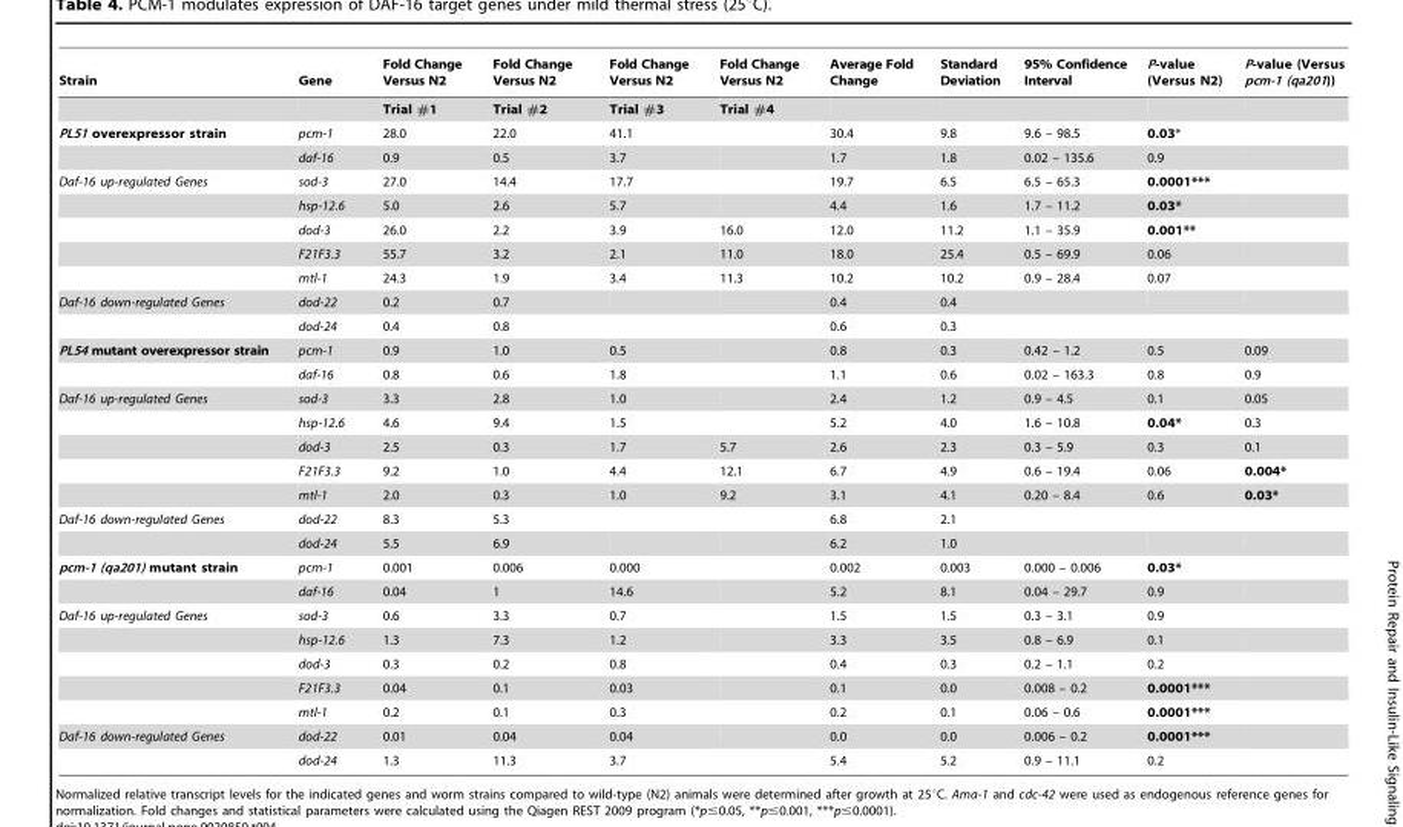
<table><thead><tr><td>Strain</td><td>Gene</td><td>Fold Change Versus N2</td><td>Fold Change Versus N2</td><td>Fold Change Versus N2</td><td>Fold Change Versus N2</td><td>Average Fold Change</td><td>Standard Deviation</td><td>95% Confidence Interval</td><td>P-value (Versus N2)</td><td>P-value (Versus pcm-1 (qa201))</td></tr></thead><tbody><tr><td></td><td></td><td>Trial #1</td><td>Trial #2</td><td>Trial #3</td><td>Trial #4</td><td></td><td></td><td></td><td></td><td></td></tr><tr><td rowspan="2">PL51 overexpressor strain</td><td>pcm-1</td><td>28.0</td><td>22.0</td><td>41.1</td><td></td><td>30.4</td><td>9.8</td><td>9.6 – 98.5</td><td>0.03*</td><td></td></tr><tr><td>daf-16</td><td>0.9</td><td>0.5</td><td>3.7</td><td></td><td>1.7</td><td>1.8</td><td>0.02 – 135.6</td><td>0.9</td><td></td></tr><tr><td rowspan="5">Daf-16 up-regulated Genes</td><td>sod-3</td><td>27.0</td><td>14.4</td><td>17.7</td><td></td><td>19.7</td><td>6.5</td><td>6.5 – 65.3</td><td>0.0001***</td><td></td></tr><tr><td>hsp-12.6</td><td>5.0</td><td>2.6</td><td>5.7</td><td></td><td>4.4</td><td>1.6</td><td>1.7 – 11.2</td><td>0.03*</td><td></td></tr><tr><td>dod-3</td><td>26.0</td><td>2.2</td><td>3.9</td><td>16.0</td><td>12.0</td><td>11.2</td><td>1.1 – 35.9</td><td>0.001**</td><td></td></tr><tr><td>F21F3.3</td><td>55.7</td><td>3.2</td><td>2.1</td><td>11.0</td><td>18.0</td><td>25.4</td><td>0.5 – 69.9</td><td>0.06</td><td></td></tr><tr><td>mtl-1</td><td>24.3</td><td>1.9</td><td>3.4</td><td>11.3</td><td>10.2</td><td>10.2</td><td>0.9 – 28.4</td><td>0.07</td><td></td></tr><tr><td rowspan="2">Daf-16 down-regulated Genes</td><td>dod-22</td><td>0.2</td><td>0.7</td><td></td><td></td><td>0.4</td><td>0.4</td><td></td><td></td><td></td></tr><tr><td>dod-24</td><td>0.4</td><td>0.8</td><td></td><td></td><td>0.6</td><td>0.3</td><td></td><td></td><td></td></tr><tr><td rowspan="2">PL54 mutant overexpressor strain</td><td>pcm-1</td><td>0.9</td><td>1.0</td><td>0.5</td><td></td><td>0.8</td><td>0.3</td><td>0.42 – 1.2</td><td>0.5</td><td>0.09</td></tr><tr><td>daf-16</td><td>0.8</td><td>0.6</td><td>1.8</td><td></td><td>1.1</td><td>0.6</td><td>0.02 – 163.3</td><td>0.8</td><td>0.9</td></tr><tr><td rowspan="5">Daf-16 up-regulated Genes</td><td>sod-3</td><td>3.3</td><td>2.8</td><td>1.0</td><td></td><td>2.4</td><td>1.2</td><td>0.9 – 4.5</td><td>0.1</td><td>0.05</td></tr><tr><td>hsp-12.6</td><td>4.6</td><td>9.4</td><td>1.5</td><td></td><td>5.2</td><td>4.0</td><td>1.6 – 10.8</td><td>0.04*</td><td>0.3</td></tr><tr><td>dod-3</td><td>2.5</td><td>0.3</td><td>1.7</td><td>5.7</td><td>2.6</td><td>2.3</td><td>0.3 – 5.9</td><td>0.3</td><td>0.1</td></tr><tr><td>F21F3.3</td><td>9.2</td><td>1.0</td><td>4.4</td><td>12.1</td><td>6.7</td><td>4.9</td><td>0.6 – 19.4</td><td>0.06</td><td>0.004*</td></tr><tr><td>mtl-1</td><td>2.0</td><td>0.3</td><td>1.0</td><td>9.2</td><td>3.1</td><td>4.1</td><td>0.20 – 8.4</td><td>0.6</td><td>0.03*</td></tr><tr><td rowspan="2">Daf-16 down-regulated Genes</td><td>dod-22</td><td>8.3</td><td>5.3</td><td></td><td></td><td>6.8</td><td>2.1</td><td></td><td></td><td></td></tr><tr><td>dod-24</td><td>5.5</td><td>6.9</td><td></td><td></td><td>6.2</td><td>1.0</td><td></td><td></td><td></td></tr><tr><td rowspan="2">pcm-1 (qa201) mutant strain</td><td>pcm-1</td><td>0.001</td><td>0.006</td><td>0.000</td><td></td><td>0.002</td><td>0.003</td><td>0.000 – 0.006</td><td>0.03*</td><td></td></tr><tr><td>daf-16</td><td>0.04</td><td>1</td><td>14.6</td><td></td><td>5.2</td><td>8.1</td><td>0.04 – 29.7</td><td>0.9</td><td></td></tr><tr><td rowspan="5">Daf-16 up-regulated Genes</td><td>sod-3</td><td>0.6</td><td>3.3</td><td>0.7</td><td></td><td>1.5</td><td>1.5</td><td>0.3 – 3.1</td><td>0.9</td><td></td></tr><tr><td>hsp-12.6</td><td>1.3</td><td>7.3</td><td>1.2</td><td></td><td>3.3</td><td>3.5</td><td>0.8 – 6.9</td><td>0.1</td><td></td></tr><tr><td>dod-3</td><td>0.3</td><td>0.2</td><td>0.8</td><td></td><td>0.4</td><td>0.3</td><td>0.2 – 1.1</td><td>0.2</td><td></td></tr><tr><td>F21F3.3</td><td>0.04</td><td>0.1</td><td>0.03</td><td></td><td>0.1</td><td>0.0</td><td>0.008 – 0.2</td><td>0.0001***</td><td></td></tr><tr><td>mtl-1</td><td>0.2</td><td>0.1</td><td>0.3</td><td></td><td>0.2</td><td>0.1</td><td>0.06 – 0.6</td><td>0.0001***</td><td></td></tr><tr><td rowspan="2">Daf-16 down-regulated Genes</td><td>dod-22</td><td>0.01</td><td>0.04</td><td>0.04</td><td></td><td>0.0</td><td>0.0</td><td>0.006 – 0.2</td><td>0.0001***</td><td></td></tr><tr><td>dod-24</td><td>1.3</td><td>11.3</td><td>3.7</td><td></td><td>5.4</td><td>5.2</td><td>0.9 – 11.1</td><td>0.2</td><td></td></tr></tbody></table>